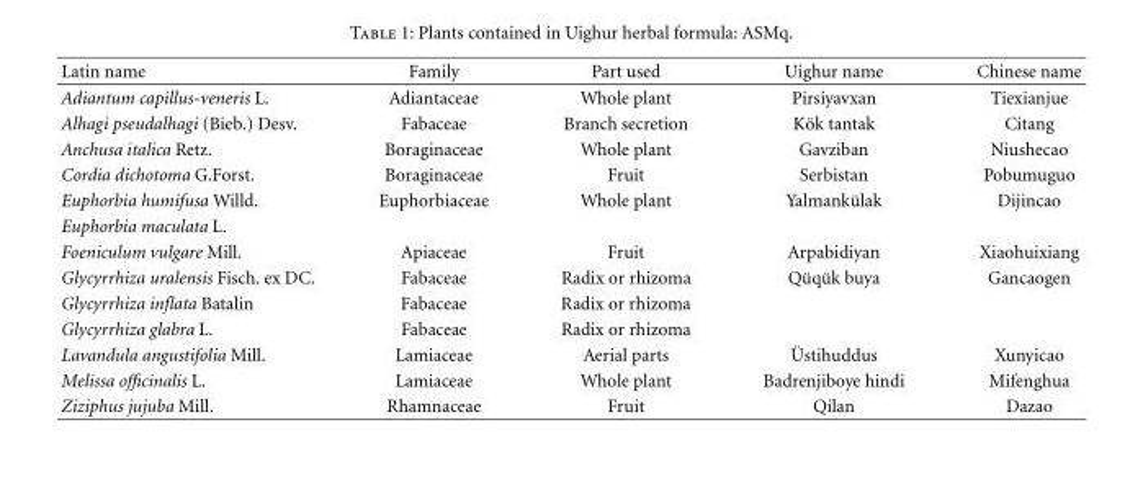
<table><thead><tr><td>Latin name</td><td>Family</td><td>Part used</td><td>Uighur name</td><td>Chinese name</td></tr></thead><tbody><tr><td>Adiantum capillus-veneris L.</td><td>Adiantaceae</td><td>Whole plant</td><td>Pirsiyavxan</td><td>Tiexianjue</td></tr><tr><td>Alhagi pseudalhagi (Bieb.) Desv.</td><td>Fabaceae</td><td>Branch secretion</td><td>K¨ok tantak</td><td>Citang</td></tr><tr><td>Anchusa italica Retz.</td><td>Boraginaceae</td><td>Whole plant</td><td>Gavziban</td><td>Niushecao</td></tr><tr><td>Cordia dichotoma G.Forst.</td><td>Boraginaceae</td><td>Fruit</td><td>Serbistan</td><td>Pobumuguo</td></tr><tr><td>Euphorbia humifusa Willd.</td><td>Euphorbiaceae</td><td>Whole plant</td><td>Yalmank¨ulak</td><td>Dijincao</td></tr><tr><td colspan="5">Euphorbia maculata L.</td></tr><tr><td>Foeniculum vulgare Mill.</td><td>Apiaceae</td><td>Fruit</td><td>Arpabidiyan</td><td>Xiaohuixiang</td></tr><tr><td>Glycyrrhiza uralensis Fisch. ex DC.</td><td>Fabaceae</td><td>Radix or rhizoma</td><td>Q¨uq¨uk buya</td><td>Gancaogen</td></tr><tr><td>Glycyrrhiza inflata Batalin</td><td>Fabaceae</td><td>Radix or rhizoma</td><td></td><td></td></tr><tr><td>Glycyrrhiza glabra L.</td><td>Fabaceae</td><td>Radix or rhizoma</td><td></td><td></td></tr><tr><td>Lavandula angustifolia Mill.</td><td>Lamiaceae</td><td>Aerial parts</td><td>¨Ustihuddus</td><td>Xunyicao</td></tr><tr><td>Melissa officinalis L.</td><td>Lamiaceae</td><td>Whole plant</td><td>Badrenjiboye hindi</td><td>Mifenghua</td></tr><tr><td>Ziziphus jujuba Mill.</td><td>Rhamnaceae</td><td>Fruit</td><td>Qilan</td><td>Dazao</td></tr></tbody></table>